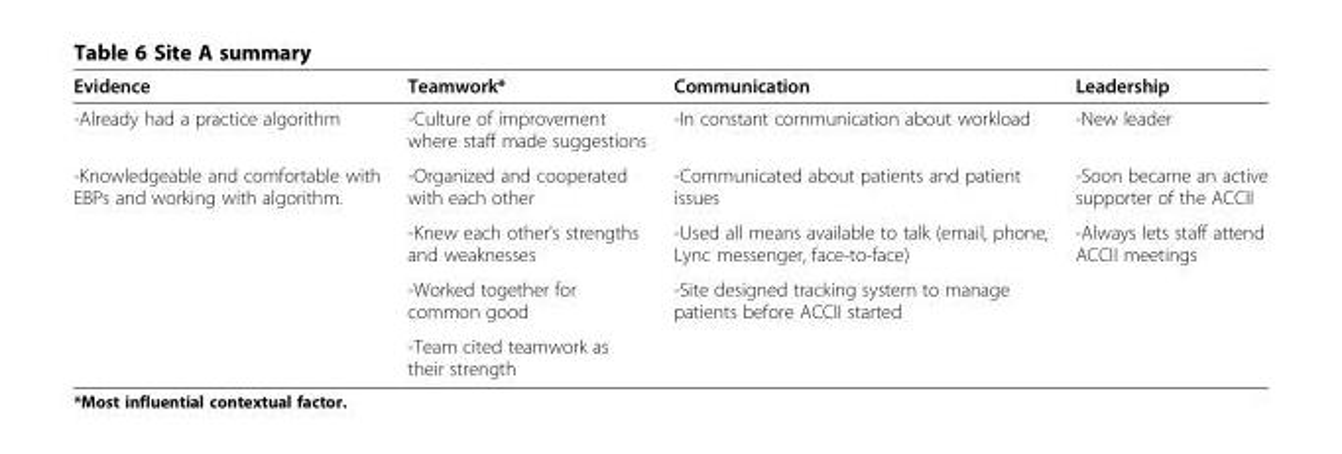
<table><thead><tr><td>Evidence</td><td>Teamwork*</td><td>Communication</td><td>Leadership</td></tr></thead><tbody><tr><td>-Already had a practice algorithm</td><td>-Culture of improvement where staff made suggestions</td><td>-In constant communication about workload</td><td>-New leader</td></tr><tr><td rowspan="4">-Knowledgeable and comfortable with EBPs and working with algorithm.</td><td>-Organized and cooperated with each other</td><td>-Communicated about patients and patient issues</td><td>-Soon became an active supporter of the ACCII</td></tr><tr><td>-Knew each other’s strengths and weaknesses</td><td>-Used all means available to talk (email, phone, Lync messenger, face-to-face)</td><td rowspan="3">-Always lets staff attend ACCII meetings</td></tr><tr><td>-Worked together for common good</td><td rowspan="2">-Site designed tracking system to manage patients before ACCII started</td></tr><tr><td>-Team cited teamwork as their strength</td></tr></tbody></table>